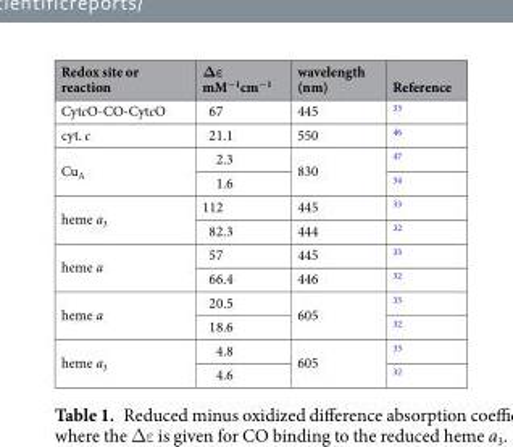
<table><thead><tr><td>Redox site or reaction</td><td>Δε mM<sup>−1</sup>cm<sup>−1</sup></td><td>wavelength (nm)</td><td>Reference</td></tr></thead><tbody><tr><td>CytcO-CO-CytcO</td><td>67</td><td>445</td><td><sup>33</sup></td></tr><tr><td>cyt. c</td><td>21.1</td><td>550</td><td><sup>46</sup></td></tr><tr><td rowspan="2">Cu<sub>A</sub></td><td>2.3</td><td rowspan="2">830</td><td><sup>47</sup></td></tr><tr><td>1.6</td><td><sup>34</sup></td></tr><tr><td rowspan="2">heme a<sub>3</sub></td><td>112</td><td>445</td><td><sup>33</sup></td></tr><tr><td>82.3</td><td>444</td><td><sup>32</sup></td></tr><tr><td rowspan="2">heme a</td><td>57</td><td>445</td><td><sup>33</sup></td></tr><tr><td>66.4</td><td>446</td><td><sup>32</sup></td></tr><tr><td rowspan="2">heme a</td><td>20.5</td><td rowspan="2">605</td><td><sup>33</sup></td></tr><tr><td>18.6</td><td><sup>32</sup></td></tr><tr><td rowspan="2">heme a<sub>3</sub></td><td>4.8</td><td rowspan="2">605</td><td><sup>33</sup></td></tr><tr><td>4.6</td><td><sup>32</sup></td></tr></tbody></table>